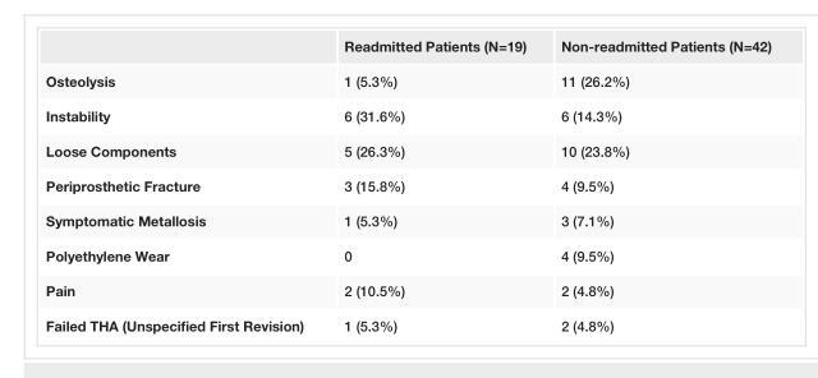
<table><thead><tr><td></td><td>Readmitted Patients (N=19)</td><td>Non-readmitted Patients (N=42)</td></tr></thead><tbody><tr><td>Osteolysis</td><td>1 (5.3%)</td><td>11 (26.2%)</td></tr><tr><td>Instability</td><td>6 (31.6%)</td><td>6 (14.3%)</td></tr><tr><td>Loose Components</td><td>5 (26.3%)</td><td>10 (23.8%)</td></tr><tr><td>Periprosthetic Fracture</td><td>3 (15.8%)</td><td>4 (9.5%)</td></tr><tr><td>Symptomatic Metallosis</td><td>1 (5.3%)</td><td>3 (7.1%)</td></tr><tr><td>Polyethylene Wear</td><td>0</td><td>4 (9.5%)</td></tr><tr><td>Pain</td><td>2 (10.5%)</td><td>2 (4.8%)</td></tr><tr><td>Failed THA (Unspecified First Revision)</td><td>1 (5.3%)</td><td>2 (4.8%)</td></tr></tbody></table>